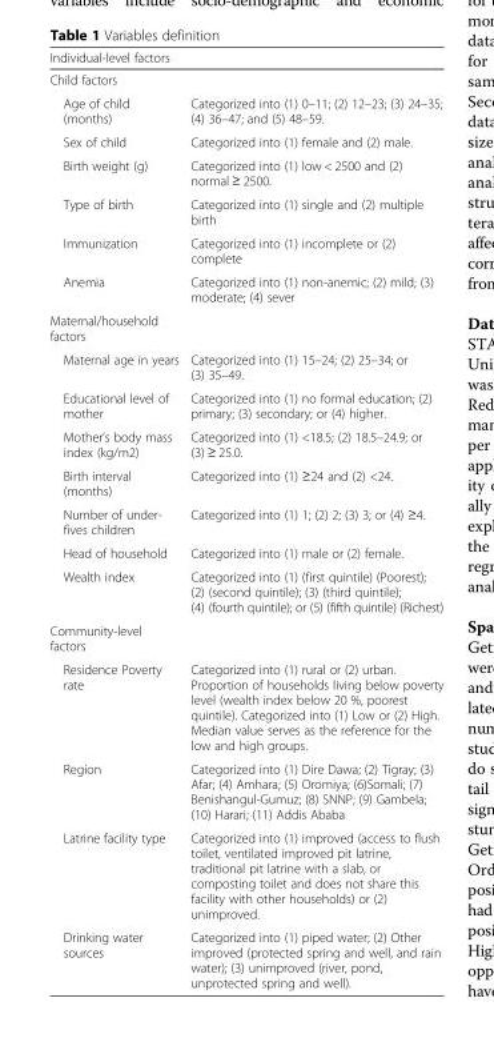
<table><thead><tr><td>Individual-level factors</td><td></td></tr></thead><tbody><tr><td colspan="2">Child factors</td></tr><tr><td>Age of child (months)</td><td>Categorized into (1) 0–11; (2) 12–23; (3) 24–35; (4) 36–47; and (5) 48–59.</td></tr><tr><td>Sex of child</td><td>Categorized into (1) female and (2) male.</td></tr><tr><td>Birth weight (g)</td><td>Categorized into (1) low &lt; 2500 and (2) normal ≥ 2500.</td></tr><tr><td>Type of birth</td><td>Categorized into (1) single and (2) multiple birth</td></tr><tr><td>Immunization</td><td>Categorized into (1) incomplete or (2) complete</td></tr><tr><td>Anemia</td><td>Categorized into (1) non-anemic; (2) mild; (3) moderate; (4) sever</td></tr><tr><td colspan="2">Maternal/household factors</td></tr><tr><td>Maternal age in years</td><td>Categorized into (1) 15–24; (2) 25–34; or (3) 35–49.</td></tr><tr><td>Educational level of mother</td><td>Categorized into (1) no formal education; (2) primary; (3) secondary; or (4) higher.</td></tr><tr><td>Mother’s body mass index (kg/m2)</td><td>Categorized into (1) &lt;18.5; (2) 18.5–24.9; or (3) ≥ 25.0.</td></tr><tr><td>Birth interval (months)</td><td>Categorized into (1) ≥24 and (2) &lt;24.</td></tr><tr><td>Number of under- fives children</td><td>Categorized into (1) 1; (2) 2; (3) 3; or (4) ≥4.</td></tr><tr><td>Head of household</td><td>Categorized into (1) male or (2) female.</td></tr><tr><td>Wealth index</td><td>Categorized into (1) (first quintile) (Poorest); (2) (second quintile); (3) (third quintile); (4) (fourth quintile); or (5) (fifth quintile) (Richest)</td></tr><tr><td colspan="2">Community-level factors</td></tr><tr><td>Residence Poverty rate</td><td>Categorized into (1) rural or (2) urban. Proportion of households living below poverty level (wealth index below 20 %, poorest quintile). Categorized into (1) Low or (2) High. Median value serves as the reference for the low and high groups.</td></tr><tr><td>Region</td><td>Categorized into (1) Dire Dawa; (2) Tigray; (3) Afar; (4) Amhara; (5) Oromiya; (6)Somali; (7) Benishangul-Gumuz; (8) SNNP; (9) Gambela; (10) Harari; (11) Addis Ababa</td></tr><tr><td>Latrine facility type</td><td>Categorized into (1) improved (access to flush toilet, ventilated improved pit latrine, traditional pit latrine with a slab, or composting toilet and does not share this facility with other households) or (2) unimproved.</td></tr><tr><td>Drinking water sources</td><td>Categorized into (1) piped water; (2) Other improved (protected spring and well, and rain water); (3) unimproved (river, pond, unprotected spring and well).</td></tr></tbody></table>